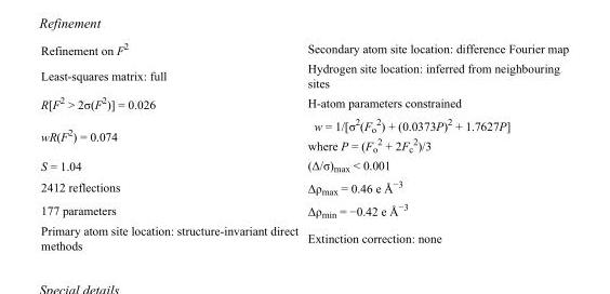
<table><tbody><tr><td>Refinement on F<sup>2</sup></td><td>Secondary atom site location: difference Fourier map</td></tr><tr><td>Least-squares matrix: full</td><td>Hydrogen site location: inferred from neighbouring sites</td></tr><tr><td>R[F<sup>2</sup> &gt; 2σ(F<sup>2</sup>)] = 0.026</td><td>H-atom parameters constrained</td></tr><tr><td>wR(F<sup>2</sup>) = 0.074</td><td>w = 1/[σ<sup>2</sup>(F<sub>o</sub> <sup>2</sup>) + (0.0373P)<sup>2</sup> + 1.7627P] where P = (F<sub>o</sub> <sup>2</sup> + 2F<sub>c</sub> <sup>2</sup>)/3</td></tr><tr><td>S = 1.04</td><td>(Δ/σ)<sub>max</sub> &lt; 0.001</td></tr><tr><td>2412 reflections</td><td>Δρ<sub>max</sub> = 0.46 e Å<sup>−3</sup></td></tr><tr><td>177 parameters</td><td>Δρ<sub>min</sub> = −0.42 e Å<sup>−3</sup></td></tr><tr><td>Primary atom site location: structure-invariant direct methods</td><td>Extinction correction: none</td></tr></tbody></table>